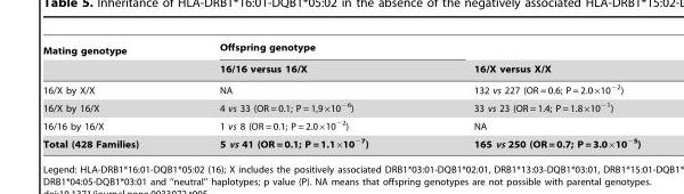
<table><thead><tr><td rowspan="2">Mating genotype</td><td rowspan="2">Offspring genotype 16/16 versus 16/X</td><td rowspan="2">16/X versus X/X</td></tr><tr></tr></thead><tbody><tr><td>16/X by X/X</td><td>NA</td><td>132 vs 227 (OR = 0.6; P = 2.0×10<sup>−2</sup>)</td></tr><tr><td>16/X by 16/X</td><td>4 vs 33 (OR = 0.1; P = 1,9×10<sup>−6</sup>)</td><td>33 vs 23 (OR = 1.4; P = 1.8×10<sup>−1</sup>)</td></tr><tr><td>16/16 by 16/X</td><td>1 vs 8 (OR = 0.1; P = 2.0×10<sup>−2</sup>)</td><td>NA</td></tr><tr><td>Total (428 Families)</td><td>5 vs 41 (OR = 0.1; P = 1.1×10<sup>−7</sup>)</td><td>165 vs 250 (OR = 0.7; P = 3.0×10<sup>−5</sup>)</td></tr></tbody></table>